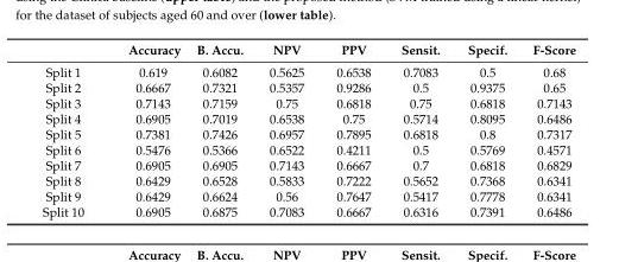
<table><thead><tr><td></td><td>Accuracy</td><td>B. Accu.</td><td>NPV</td><td>PPV</td><td>Sensit.</td><td>Specif.</td><td>F-Score</td></tr></thead><tbody><tr><td>Split 1</td><td>0.619</td><td>0.6082</td><td>0.5625</td><td>0.6538</td><td>0.7083</td><td>0.5</td><td>0.68</td></tr><tr><td>Split 2</td><td>0.6667</td><td>0.7321</td><td>0.5357</td><td>0.9286</td><td>0.5</td><td>0.9375</td><td>0.65</td></tr><tr><td>Split 3</td><td>0.7143</td><td>0.7159</td><td>0.75</td><td>0.6818</td><td>0.75</td><td>0.6818</td><td>0.7143</td></tr><tr><td>Split 4</td><td>0.6905</td><td>0.7019</td><td>0.6538</td><td>0.75</td><td>0.5714</td><td>0.8095</td><td>0.6486</td></tr><tr><td>Split 5</td><td>0.7381</td><td>0.7426</td><td>0.6957</td><td>0.7895</td><td>0.6818</td><td>0.8</td><td>0.7317</td></tr><tr><td>Split 6</td><td>0.5476</td><td>0.5366</td><td>0.6522</td><td>0.4211</td><td>0.5</td><td>0.5769</td><td>0.4571</td></tr><tr><td>Split 7</td><td>0.6905</td><td>0.6905</td><td>0.7143</td><td>0.6667</td><td>0.7</td><td>0.6818</td><td>0.6829</td></tr><tr><td>Split 8</td><td>0.6429</td><td>0.6528</td><td>0.5833</td><td>0.7222</td><td>0.5652</td><td>0.7368</td><td>0.6341</td></tr><tr><td>Split 9</td><td>0.6429</td><td>0.6624</td><td>0.56</td><td>0.7647</td><td>0.5417</td><td>0.7778</td><td>0.6341</td></tr><tr><td>Split 10</td><td>0.6905</td><td>0.6875</td><td>0.7083</td><td>0.6667</td><td>0.6316</td><td>0.7391</td><td>0.6486</td></tr></tbody></table>